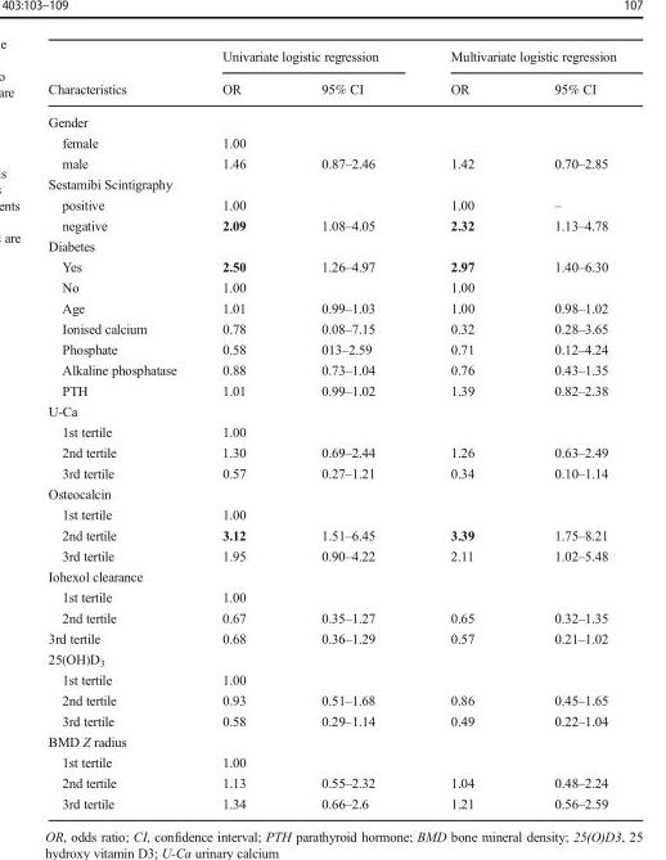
<table><thead><tr><td rowspan="2">Characteristics</td><td colspan="2">Univariate logistic regression</td><td colspan="2">Multivariate logistic regression</td></tr><tr><td>OR</td><td>95% CI</td><td>OR</td><td>95% CI</td></tr></thead><tbody><tr><td colspan="5">Gender</td></tr><tr><td>female</td><td>1.00</td><td></td><td></td><td></td></tr><tr><td>male</td><td>1.46</td><td>0.87–2.46</td><td>1.42</td><td>0.70–2.85</td></tr><tr><td colspan="5">Sestamibi Scintigraphy</td></tr><tr><td>positive</td><td>1.00</td><td></td><td>1.00</td><td>–</td></tr><tr><td>negative</td><td>2.09</td><td>1.08–4.05</td><td>2.32</td><td>1.13–4.78</td></tr><tr><td colspan="5">Diabetes</td></tr><tr><td>Yes</td><td>2.50</td><td>1.26–4.97</td><td>2.97</td><td>1.40–6.30</td></tr><tr><td>No</td><td>1.00</td><td></td><td>1.00</td><td></td></tr><tr><td>Age</td><td>1.01</td><td>0.99–1.03</td><td>1.00</td><td>0.98–1.02</td></tr><tr><td>Ionised calcium</td><td>0.78</td><td>0.08–7.15</td><td>0.32</td><td>0.28–3.65</td></tr><tr><td>Phosphate</td><td>0.58</td><td>013–2.59</td><td>0.71</td><td>0.12–4.24</td></tr><tr><td>Alkaline phosphatase</td><td>0.88</td><td>0.73–1.04</td><td>0.76</td><td>0.43–1.35</td></tr><tr><td>PTH</td><td>1.01</td><td>0.99–1.02</td><td>1.39</td><td>0.82–2.38</td></tr><tr><td colspan="5">U-Ca</td></tr><tr><td>1st tertile</td><td>1.00</td><td></td><td></td><td></td></tr><tr><td>2nd tertile</td><td>1.30</td><td>0.69–2.44</td><td>1.26</td><td>0.63–2.49</td></tr><tr><td>3rd tertile</td><td>0.57</td><td>0.27–1.21</td><td>0.34</td><td>0.10–1.14</td></tr><tr><td colspan="5">Osteocalcin</td></tr><tr><td>1st tertile</td><td>1.00</td><td></td><td></td><td></td></tr><tr><td>2nd tertile</td><td>3.12</td><td>1.51–6.45</td><td>3.39</td><td>1.75–8.21</td></tr><tr><td>3rd tertile</td><td>1.95</td><td>0.90–4.22</td><td>2.11</td><td>1.02–5.48</td></tr><tr><td colspan="5">Iohexol clearance</td></tr><tr><td>1st tertile</td><td>1.00</td><td></td><td></td><td></td></tr><tr><td>2nd tertile</td><td>0.67</td><td>0.35–1.27</td><td>0.65</td><td>0.32–1.35</td></tr><tr><td>3rd tertile</td><td>0.68</td><td>0.36–1.29</td><td>0.57</td><td>0.21–1.02</td></tr><tr><td colspan="5">25(OH)D<sub>3</sub></td></tr><tr><td>1st tertile</td><td>1.00</td><td></td><td></td><td></td></tr><tr><td>2nd tertile</td><td>0.93</td><td>0.51–1.68</td><td>0.86</td><td>0.45–1.65</td></tr><tr><td>3rd tertile</td><td>0.58</td><td>0.29–1.14</td><td>0.49</td><td>0.22–1.04</td></tr><tr><td colspan="5">BMD Z radius</td></tr><tr><td>1st tertile</td><td>1.00</td><td></td><td></td><td></td></tr><tr><td>2nd tertile</td><td>1.13</td><td>0.55–2.32</td><td>1.04</td><td>0.48–2.24</td></tr><tr><td>3rd tertile</td><td>1.34</td><td>0.66–2.6</td><td>1.21</td><td>0.56–2.59</td></tr></tbody></table>